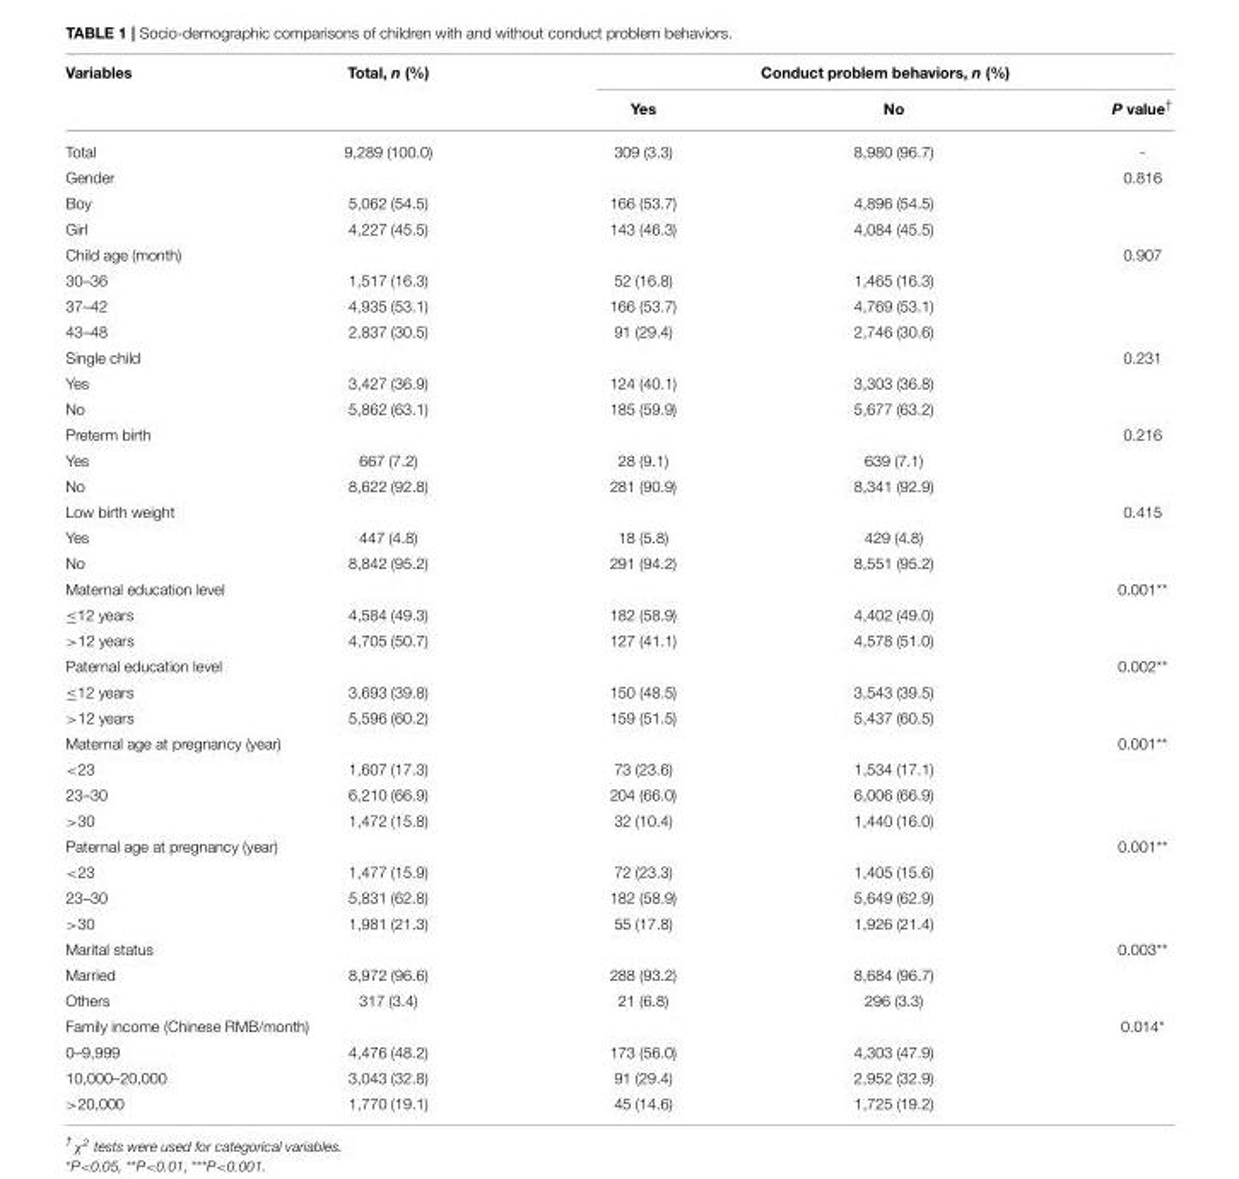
<table><thead><tr><td rowspan="2">Variables</td><td rowspan="2">Total, n (%)</td><td colspan="3">Conduct problem behaviors, n (%)</td></tr><tr><td>Yes</td><td>No</td><td>P value<sup>†</sup></td></tr></thead><tbody><tr><td>Total</td><td>9,289 (100.0)</td><td>309 (3.3)</td><td>8,980 (96.7)</td><td>-</td></tr><tr><td colspan="4">Gender</td><td>0.816</td></tr><tr><td>Boy</td><td>5,062 (54.5)</td><td>166 (53.7)</td><td>4,896 (54.5)</td><td></td></tr><tr><td>Girl</td><td>4,227 (45.5)</td><td>143 (46.3)</td><td>4,084 (45.5)</td><td></td></tr><tr><td colspan="4">Child age (month)</td><td>0.907</td></tr><tr><td>30–36</td><td>1,517 (16.3)</td><td>52 (16.8)</td><td>1,465 (16.3)</td><td></td></tr><tr><td>37–42</td><td>4,935 (53.1)</td><td>166 (53.7)</td><td>4,769 (53.1)</td><td></td></tr><tr><td>43–48</td><td>2,837 (30.5)</td><td>91 (29.4)</td><td>2,746 (30.6)</td><td></td></tr><tr><td colspan="4">Single child</td><td>0.231</td></tr><tr><td>Yes</td><td>3,427 (36.9)</td><td>124 (40.1)</td><td>3,303 (36.8)</td><td></td></tr><tr><td>No</td><td>5,862 (63.1)</td><td>185 (59.9)</td><td>5,677 (63.2)</td><td></td></tr><tr><td colspan="4">Preterm birth</td><td>0.216</td></tr><tr><td>Yes</td><td>667 (7.2)</td><td>28 (9.1)</td><td>639 (7.1)</td><td></td></tr><tr><td>No</td><td>8,622 (92.8)</td><td>281 (90.9)</td><td>8,341 (92.9)</td><td></td></tr><tr><td colspan="4">Low birth weight</td><td>0.415</td></tr><tr><td>Yes</td><td>447 (4.8)</td><td>18 (5.8)</td><td>429 (4.8)</td><td></td></tr><tr><td>No</td><td>8,842 (95.2)</td><td>291 (94.2)</td><td>8,551 (95.2)</td><td></td></tr><tr><td colspan="4">Maternal education level</td><td>0.001**</td></tr><tr><td>≤12 years</td><td>4,584 (49.3)</td><td>182 (58.9)</td><td>4,402 (49.0)</td><td></td></tr><tr><td>&gt;12 years</td><td>4,705 (50.7)</td><td>127 (41.1)</td><td>4,578 (51.0)</td><td></td></tr><tr><td colspan="4">Paternal education level</td><td>0.002**</td></tr><tr><td>≤12 years</td><td>3,693 (39.8)</td><td>150 (48.5)</td><td>3,543 (39.5)</td><td></td></tr><tr><td>&gt;12 years</td><td>5,596 (60.2)</td><td>159 (51.5)</td><td>5,437 (60.5)</td><td></td></tr><tr><td colspan="4">Maternal age at pregnancy (year)</td><td>0.001**</td></tr><tr><td>&lt;23</td><td>1,607 (17.3)</td><td>73 (23.6)</td><td>1,534 (17.1)</td><td></td></tr><tr><td>23–30</td><td>6,210 (66.9)</td><td>204 (66.0)</td><td>6,006 (66.9)</td><td></td></tr><tr><td>&gt;30</td><td>1,472 (15.8)</td><td>32 (10.4)</td><td>1,440 (16.0)</td><td></td></tr><tr><td colspan="4">Paternal age at pregnancy (year)</td><td>0.001**</td></tr><tr><td>&lt;23</td><td>1,477 (15.9)</td><td>72 (23.3)</td><td>1,405 (15.6)</td><td></td></tr><tr><td>23–30</td><td>5,831 (62.8)</td><td>182 (58.9)</td><td>5,649 (62.9)</td><td></td></tr><tr><td>&gt;30</td><td>1,981 (21.3)</td><td>55 (17.8)</td><td>1,926 (21.4)</td><td></td></tr><tr><td colspan="4">Marital status</td><td>0.003**</td></tr><tr><td>Married</td><td>8,972 (96.6)</td><td>288 (93.2)</td><td>8,684 (96.7)</td><td></td></tr><tr><td>Others</td><td>317 (3.4)</td><td>21 (6.8)</td><td>296 (3.3)</td><td></td></tr><tr><td colspan="4">Family income (Chinese RMB/month)</td><td>0.014*</td></tr><tr><td>0–9,999</td><td>4,476 (48.2)</td><td>173 (56.0)</td><td>4,303 (47.9)</td><td></td></tr><tr><td>10,000–20,000</td><td>3,043 (32.8)</td><td>91 (29.4)</td><td>2,952 (32.9)</td><td></td></tr><tr><td>&gt;20,000</td><td>1,770 (19.1)</td><td>45 (14.6)</td><td>1,725 (19.2)</td><td></td></tr></tbody></table>